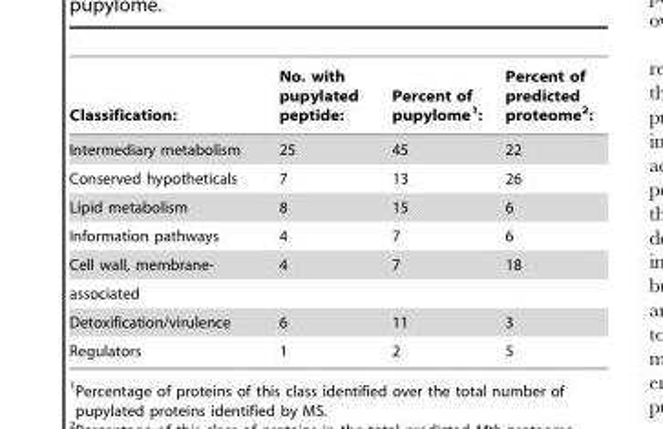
<table><thead><tr><td>Classification:</td><td>No. with pupylated peptide:</td><td>Percent of pupylome<sup>1</sup>:</td><td>Percent of predicted proteome<sup>2</sup>:</td></tr></thead><tbody><tr><td>Intermediary metabolism</td><td>25</td><td>45</td><td>22</td></tr><tr><td>Conserved hypotheticals</td><td>7</td><td>13</td><td>26</td></tr><tr><td>Lipid metabolism</td><td>8</td><td>15</td><td>6</td></tr><tr><td>Information pathways</td><td>4</td><td>7</td><td>6</td></tr><tr><td>Cell wall, membrane-</td><td>4</td><td>7</td><td>18</td></tr><tr><td colspan="4">associated</td></tr><tr><td>Detoxification/virulence</td><td>6</td><td>11</td><td>3</td></tr><tr><td>Regulators</td><td>1</td><td>2</td><td>5</td></tr></tbody></table>